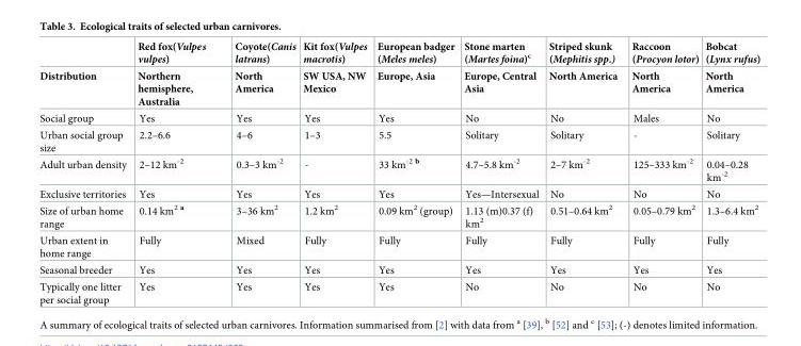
<table><thead><tr><td rowspan="2">Distribution</td><td rowspan="2">Red fox(Vulpes vulpes) Northern hemisphere, Australia</td><td rowspan="2">Coyote(Canis latrans) North America</td><td rowspan="2">Kit fox(Vulpes macrotis) SW USA, NW Mexico</td><td rowspan="2">European badger (Meles meles) Europe, Asia</td><td rowspan="2">Stone marten (Martes foina)<sup>c</sup> Europe, Central Asia</td><td rowspan="2">Striped skunk (Mephitis spp.) North America</td><td rowspan="2">Raccoon (Procyon lotor) North America</td><td rowspan="2">Bobcat (Lynx rufus) North America</td></tr><tr></tr></thead><tbody><tr><td>Social group</td><td>Yes</td><td>Yes</td><td>Yes</td><td>Yes</td><td>No</td><td>No</td><td>Males</td><td>No</td></tr><tr><td>Urban social group size</td><td>2.2–6.6</td><td>4–6</td><td>1–3</td><td>5.5</td><td>Solitary</td><td>Solitary</td><td>-</td><td>Solitary</td></tr><tr><td>Adult urban density</td><td>2–12 km<sup>-2</sup></td><td>0.3–3 km<sup>-2</sup></td><td>-</td><td>33 km<sup>-2 b</sup></td><td>4.7–5.8 km<sup>-2</sup></td><td>2–7 km<sup>-2</sup></td><td>125–333 km<sup>-2</sup></td><td>0.04–0.28 km<sup>-2</sup></td></tr><tr><td>Exclusive territories</td><td>Yes</td><td>Yes</td><td>Yes</td><td>Yes</td><td>Yes—Intersexual</td><td>No</td><td>No</td><td>No</td></tr><tr><td>Size of urban home range</td><td>0.14 km<sup>2 a</sup></td><td>3–36 km<sup>2</sup></td><td>1.2 km<sup>2</sup></td><td>0.09 km<sup>2</sup> (group)</td><td>1.13 (m)0.37 (f) km<sup>2</sup></td><td>0.51–0.64 km<sup>2</sup></td><td>0.05–0.79 km<sup>2</sup></td><td>1.3–6.4 km<sup>2</sup></td></tr><tr><td>Urban extent in home range</td><td>Fully</td><td>Mixed</td><td>Fully</td><td>Fully</td><td>Fully</td><td>Fully</td><td>Fully</td><td>Fully</td></tr><tr><td>Seasonal breeder</td><td>Yes</td><td>Yes</td><td>Yes</td><td>Yes</td><td>Yes</td><td>Yes</td><td>Yes</td><td>Yes</td></tr><tr><td>Typically one litter per social group</td><td>Yes</td><td>Yes</td><td>Yes</td><td>Yes</td><td>No</td><td>No</td><td>No</td><td>No</td></tr></tbody></table>